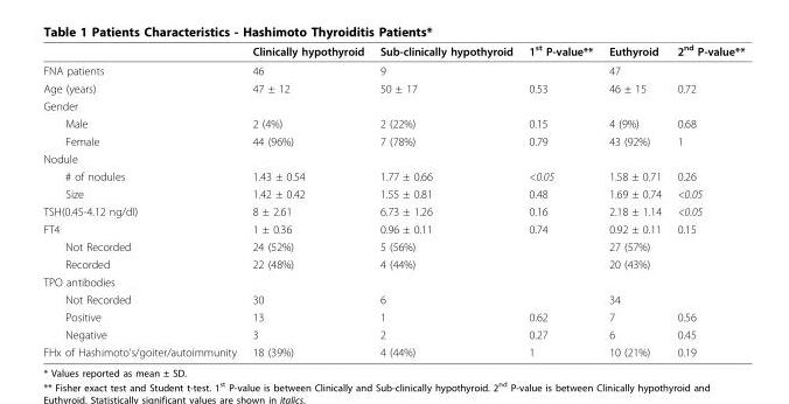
<table><thead><tr><td></td><td>Clinically hypothyroid</td><td>Sub-clinically hypothyroid</td><td>1<sup>st</sup> P-value**</td><td>Euthyroid</td><td>2<sup>nd</sup> P-value**</td></tr></thead><tbody><tr><td>FNA patients</td><td>46</td><td>9</td><td></td><td>47</td><td></td></tr><tr><td>Age (years)</td><td>47 ± 12</td><td>50 ± 17</td><td>0.53</td><td>46 ± 15</td><td>0.72</td></tr><tr><td colspan="6">Gender</td></tr><tr><td>Male</td><td>2 (4%)</td><td>2 (22%)</td><td>0.15</td><td>4 (9%)</td><td>0.68</td></tr><tr><td>Female</td><td>44 (96%)</td><td>7 (78%)</td><td>0.79</td><td>43 (92%)</td><td>1</td></tr><tr><td colspan="6">Nodule</td></tr><tr><td># of nodules</td><td>1.43 ± 0.54</td><td>1.77 ± 0.66</td><td>&lt;0.05</td><td>1.58 ± 0.71</td><td>0.26</td></tr><tr><td>Size</td><td>1.42 ± 0.42</td><td>1.55 ± 0.81</td><td>0.48</td><td>1.69 ± 0.74</td><td>&lt;0.05</td></tr><tr><td>TSH(0.45-4.12 ng/dl)</td><td>8 ± 2.61</td><td>6.73 ± 1.26</td><td>0.16</td><td>2.18 ± 1.14</td><td>&lt;0.05</td></tr><tr><td>FT4</td><td>1 ± 0.36</td><td>0.96 ± 0.11</td><td>0.74</td><td>0.92 ± 0.11</td><td>0.15</td></tr><tr><td>Not Recorded</td><td>24 (52%)</td><td>5 (56%)</td><td></td><td>27 (57%)</td><td></td></tr><tr><td>Recorded</td><td>22 (48%)</td><td>4 (44%)</td><td></td><td>20 (43%)</td><td></td></tr><tr><td colspan="6">TPO antibodies</td></tr><tr><td>Not Recorded</td><td>30</td><td>6</td><td></td><td>34</td><td></td></tr><tr><td>Positive</td><td>13</td><td>1</td><td>0.62</td><td>7</td><td>0.56</td></tr><tr><td>Negative</td><td>3</td><td>2</td><td>0.27</td><td>6</td><td>0.45</td></tr><tr><td>FHx of Hashimoto’s/goiter/autoimmunity</td><td>18 (39%)</td><td>4 (44%)</td><td>1</td><td>10 (21%)</td><td>0.19</td></tr></tbody></table>